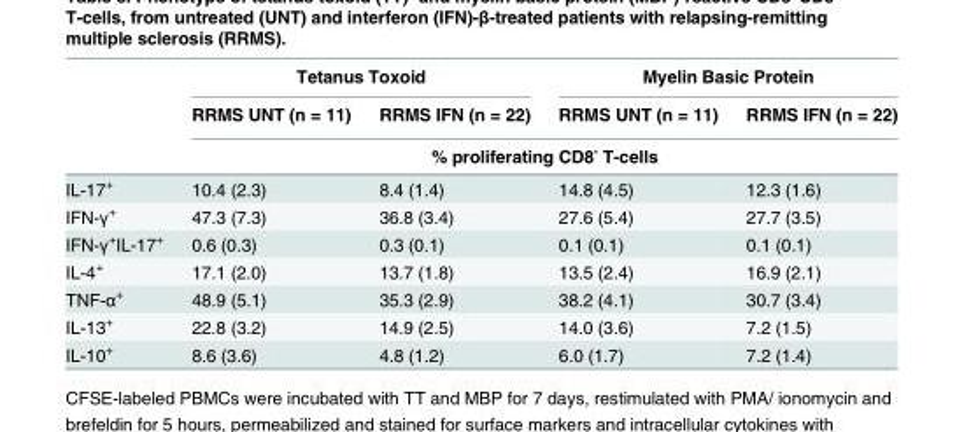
<table><thead><tr><td rowspan="3"></td><td colspan="2">Tetanus Toxoid</td><td colspan="2">Myelin Basic Protein</td></tr><tr><td>RRMS UNT (n = 11)</td><td>RRMS IFN (n = 22)</td><td>RRMS UNT (n = 11)</td><td>RRMS IFN (n = 22)</td></tr><tr><td colspan="4">% proliferating CD8<sup>-</sup> T-cells</td></tr></thead><tbody><tr><td>IL-17<sup>+</sup></td><td>10.4 (2.3)</td><td>8.4 (1.4)</td><td>14.8 (4.5)</td><td>12.3 (1.6)</td></tr><tr><td>IFN-γ<sup>+</sup></td><td>47.3 (7.3)</td><td>36.8 (3.4)</td><td>27.6 (5.4)</td><td>27.7 (3.5)</td></tr><tr><td>IFN-γ<sup>+</sup>IL-17<sup>+</sup></td><td>0.6 (0.3)</td><td>0.3 (0.1)</td><td>0.1 (0.1)</td><td>0.1 (0.1)</td></tr><tr><td>IL-4<sup>+</sup></td><td>17.1 (2.0)</td><td>13.7 (1.8)</td><td>13.5 (2.4)</td><td>16.9 (2.1)</td></tr><tr><td>TNF-α<sup>+</sup></td><td>48.9 (5.1)</td><td>35.3 (2.9)</td><td>38.2 (4.1)</td><td>30.7 (3.4)</td></tr><tr><td>IL-13<sup>+</sup></td><td>22.8 (3.2)</td><td>14.9 (2.5)</td><td>14.0 (3.6)</td><td>7.2 (1.5)</td></tr><tr><td>IL-10<sup>+</sup></td><td>8.6 (3.6)</td><td>4.8 (1.2)</td><td>6.0 (1.7)</td><td>7.2 (1.4)</td></tr></tbody></table>